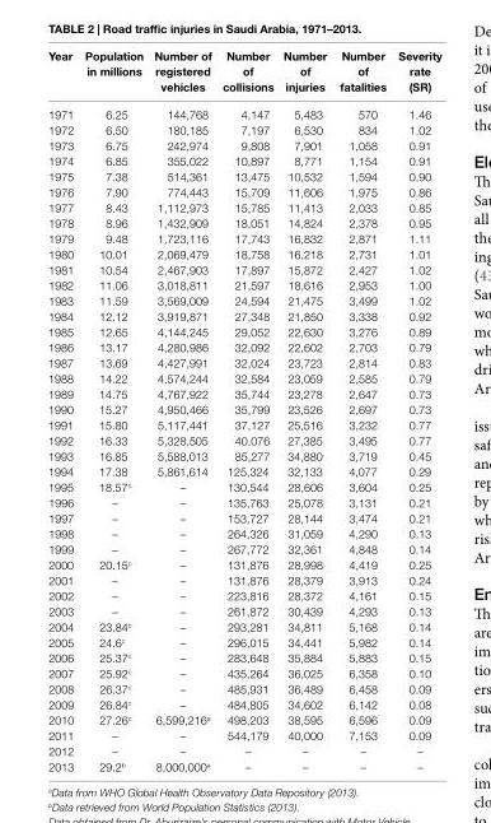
<table><thead><tr><td>Year</td><td>Population in millions</td><td>number of registered vehicles</td><td>number of collisions</td><td>number of injuries</td><td>number of fatalities</td><td>severity rate (sr)</td></tr></thead><tbody><tr><td>1971</td><td>6.25</td><td>144,768</td><td>4,147</td><td>5,483</td><td>570</td><td>1.46</td></tr><tr><td>1972</td><td>6.50</td><td>180,185</td><td>7,197</td><td>6,530</td><td>834</td><td>1.02</td></tr><tr><td>1973</td><td>6.75</td><td>242,974</td><td>9,808</td><td>7,901</td><td>1,058</td><td>0.91</td></tr><tr><td>1974</td><td>6.85</td><td>355,022</td><td>10,897</td><td>8,771</td><td>1,154</td><td>0.91</td></tr><tr><td>1975</td><td>7.38</td><td>514,361</td><td>13,475</td><td>10,532</td><td>1,594</td><td>0.90</td></tr><tr><td>1976</td><td>7.90</td><td>774,443</td><td>15,709</td><td>11,606</td><td>1,975</td><td>0.86</td></tr><tr><td>1977</td><td>8.43</td><td>1,112,973</td><td>15,785</td><td>11,413</td><td>2,033</td><td>0.85</td></tr><tr><td>1978</td><td>8.96</td><td>1,432,909</td><td>18,051</td><td>14,824</td><td>2,378</td><td>0.95</td></tr><tr><td>1979</td><td>9.48</td><td>1,723,116</td><td>17,743</td><td>16,832</td><td>2,871</td><td>1.11</td></tr><tr><td>1980</td><td>10.01</td><td>2,069,479</td><td>18,758</td><td>16,218</td><td>2,731</td><td>1.01</td></tr><tr><td>1981</td><td>10.54</td><td>2,467,903</td><td>17,897</td><td>15,872</td><td>2,427</td><td>1.02</td></tr><tr><td>1982</td><td>11.06</td><td>3,018,811</td><td>21,597</td><td>18,616</td><td>2,953</td><td>1.00</td></tr><tr><td>1983</td><td>11.59</td><td>3,569,009</td><td>24,594</td><td>21,475</td><td>3,499</td><td>1.02</td></tr><tr><td>1984</td><td>12.12</td><td>3,919,871</td><td>27,348</td><td>21,850</td><td>3,338</td><td>0.92</td></tr><tr><td>1985</td><td>12.65</td><td>4,144,245</td><td>29,052</td><td>22,630</td><td>3,276</td><td>0.89</td></tr><tr><td>1986</td><td>13.17</td><td>4,280,986</td><td>32,092</td><td>22,602</td><td>2,703</td><td>0.79</td></tr><tr><td>1987</td><td>13.69</td><td>4,427,991</td><td>32,024</td><td>23,723</td><td>2,814</td><td>0.83</td></tr><tr><td>1988</td><td>14.22</td><td>4,574,244</td><td>32,584</td><td>23,059</td><td>2,585</td><td>0.79</td></tr><tr><td>1989</td><td>14.75</td><td>4,767,922</td><td>35,744</td><td>23,278</td><td>2,647</td><td>0.73</td></tr><tr><td>1990</td><td>15.27</td><td>4,950,466</td><td>35,799</td><td>23,526</td><td>2,697</td><td>0.73</td></tr><tr><td>1991</td><td>15.80</td><td>5,117,441</td><td>37,127</td><td>25,516</td><td>3,232</td><td>0.77</td></tr><tr><td>1992</td><td>16.33</td><td>5,328,505</td><td>40,076</td><td>27,385</td><td>3,495</td><td>0.77</td></tr><tr><td>1993</td><td>16.85</td><td>5,588,013</td><td>85,277</td><td>34,880</td><td>3,719</td><td>0.45</td></tr><tr><td>1994</td><td>17.38</td><td>5,861,614</td><td>125,324</td><td>32,133</td><td>4,077</td><td>0.29</td></tr><tr><td>1995</td><td>18.57<sup>c</sup></td><td>–</td><td>130,544</td><td>28,606</td><td>3,604</td><td>0.25</td></tr><tr><td>1996</td><td>–</td><td>–</td><td>135,763</td><td>25,078</td><td>3,131</td><td>0.21</td></tr><tr><td>1997</td><td>–</td><td>–</td><td>153,727</td><td>28,144</td><td>3,474</td><td>0.21</td></tr><tr><td>1998</td><td>–</td><td>–</td><td>264,326</td><td>31,059</td><td>4,290</td><td>0.13</td></tr><tr><td>1999</td><td>–</td><td>–</td><td>267,772</td><td>32,361</td><td>4,848</td><td>0.14</td></tr><tr><td>2000</td><td>20.15<sup>c</sup></td><td>–</td><td>131,876</td><td>28,998</td><td>4,419</td><td>0.25</td></tr><tr><td>2001</td><td>–</td><td>–</td><td>131,876</td><td>28,379</td><td>3,913</td><td>0.24</td></tr><tr><td>2002</td><td>–</td><td>–</td><td>223,816</td><td>28,372</td><td>4,161</td><td>0.15</td></tr><tr><td>2003</td><td>–</td><td>–</td><td>261,872</td><td>30,439</td><td>4,293</td><td>0.13</td></tr><tr><td>2004</td><td>23.84<sup>c</sup></td><td>–</td><td>293,281</td><td>34,811</td><td>5,168</td><td>0.14</td></tr><tr><td>2005</td><td>24.6<sup>c</sup></td><td>–</td><td>296,015</td><td>34,441</td><td>5,982</td><td>0.14</td></tr><tr><td>2006</td><td>25.37<sup>c</sup></td><td>–</td><td>283,648</td><td>35,884</td><td>5,883</td><td>0.15</td></tr><tr><td>2007</td><td>25.92<sup>c</sup></td><td>–</td><td>435,264</td><td>36,025</td><td>6,358</td><td>0.10</td></tr><tr><td>2008</td><td>26.37<sup>c</sup></td><td>–</td><td>485,931</td><td>36,489</td><td>6,458</td><td>0.09</td></tr><tr><td>2009</td><td>26.84<sup>c</sup></td><td>–</td><td>484,805</td><td>34,602</td><td>6,142</td><td>0.08</td></tr><tr><td>2010</td><td>27.26<sup>c</sup></td><td>6,599,216<sup>a</sup></td><td>498,203</td><td>38,595</td><td>6,596</td><td>0.09</td></tr><tr><td>2011</td><td>–</td><td>–</td><td>544,179</td><td>40,000</td><td>7,153</td><td>0.09</td></tr><tr><td>2012</td><td>–</td><td>–</td><td>–</td><td>–</td><td>–</td><td>–</td></tr><tr><td>2013</td><td>29.2<sup>b</sup></td><td>8,000,000<sup>a</sup></td><td>–</td><td>–</td><td>–</td><td>–</td></tr></tbody></table>